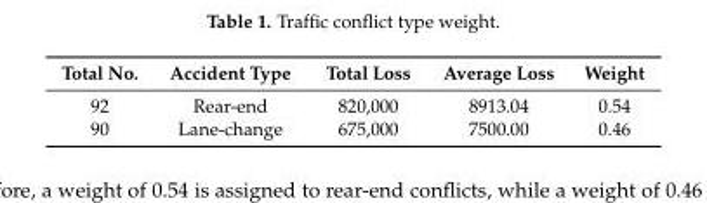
<table><thead><tr><td>Total No.</td><td>Accident Type</td><td>Total Loss</td><td>Average Loss</td><td>Weight</td></tr></thead><tbody><tr><td>92</td><td>Rear-end</td><td>820,000</td><td>8913.04</td><td>0.54</td></tr><tr><td>90</td><td>Lane-change</td><td>675,000</td><td>7500.00</td><td>0.46</td></tr></tbody></table>